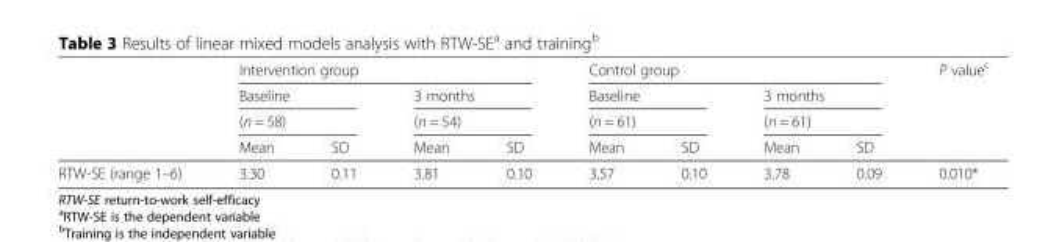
<table><thead><tr><td rowspan="4"></td><td colspan="4">Intervention group</td><td colspan="4">Control group</td><td rowspan="4">P value<sup>c</sup></td></tr><tr><td rowspan="2" colspan="2">Baseline (n = 58)</td><td rowspan="2" colspan="2">3 months (n = 54)</td><td rowspan="2" colspan="2">Baseline (n = 61)</td><td rowspan="2" colspan="2">3 months (n = 61)</td></tr><tr></tr><tr><td>Mean</td><td>SD</td><td>Mean</td><td>SD</td><td>Mean</td><td>SD</td><td>Mean</td><td>SD</td></tr></thead><tbody><tr><td>RTW-SE (range 1–6)</td><td>3.30</td><td>0.11</td><td>3.81</td><td>0.10</td><td>3.57</td><td>0.10</td><td>3.78</td><td>0.09</td><td>0.010*</td></tr></tbody></table>